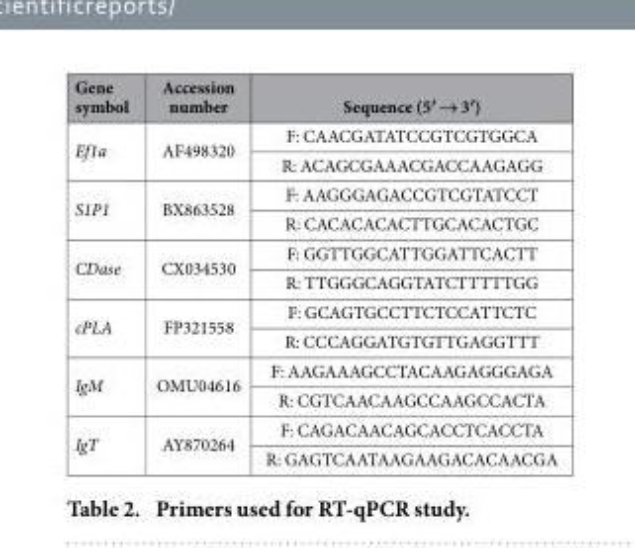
<table><thead><tr><td>Gene symbol</td><td>Accession number</td><td>Sequence (5′ → 3′)</td></tr></thead><tbody><tr><td rowspan="2">Ef1a</td><td rowspan="2">AF498320</td><td>F: CAACGATATCCGTCGTGGCA</td></tr><tr><td>R: ACAGCGAAACGACCAAGAGG</td></tr><tr><td rowspan="2">S1P1</td><td rowspan="2">BX863528</td><td>F: AAGGGAGACCGTCGTATCCT</td></tr><tr><td>R: CACACACACTTGCACACTGC</td></tr><tr><td rowspan="2">CDase</td><td rowspan="2">CX034530</td><td>F: GGTTGGCATTGGATTCACTT</td></tr><tr><td>R: TTGGGCAGGTATCTTTTTGG</td></tr><tr><td rowspan="2">cPLA</td><td rowspan="2">FP321558</td><td>F: GCAGTGCCTTCTCCATTCTC</td></tr><tr><td>R: CCCAGGATGTGTTGAGGTTT</td></tr><tr><td rowspan="2">IgM</td><td rowspan="2">OMU04616</td><td>F: AAGAAAGCCTACAAGAGGGAGA</td></tr><tr><td>R: CGTCAACAAGCCAAGCCACTA</td></tr><tr><td rowspan="2">IgT</td><td rowspan="2">AY870264</td><td>F: CAGACAACAGCACCTCACCTA</td></tr><tr><td>R: GAGTCAATAAGAAGACACAACGA</td></tr></tbody></table>